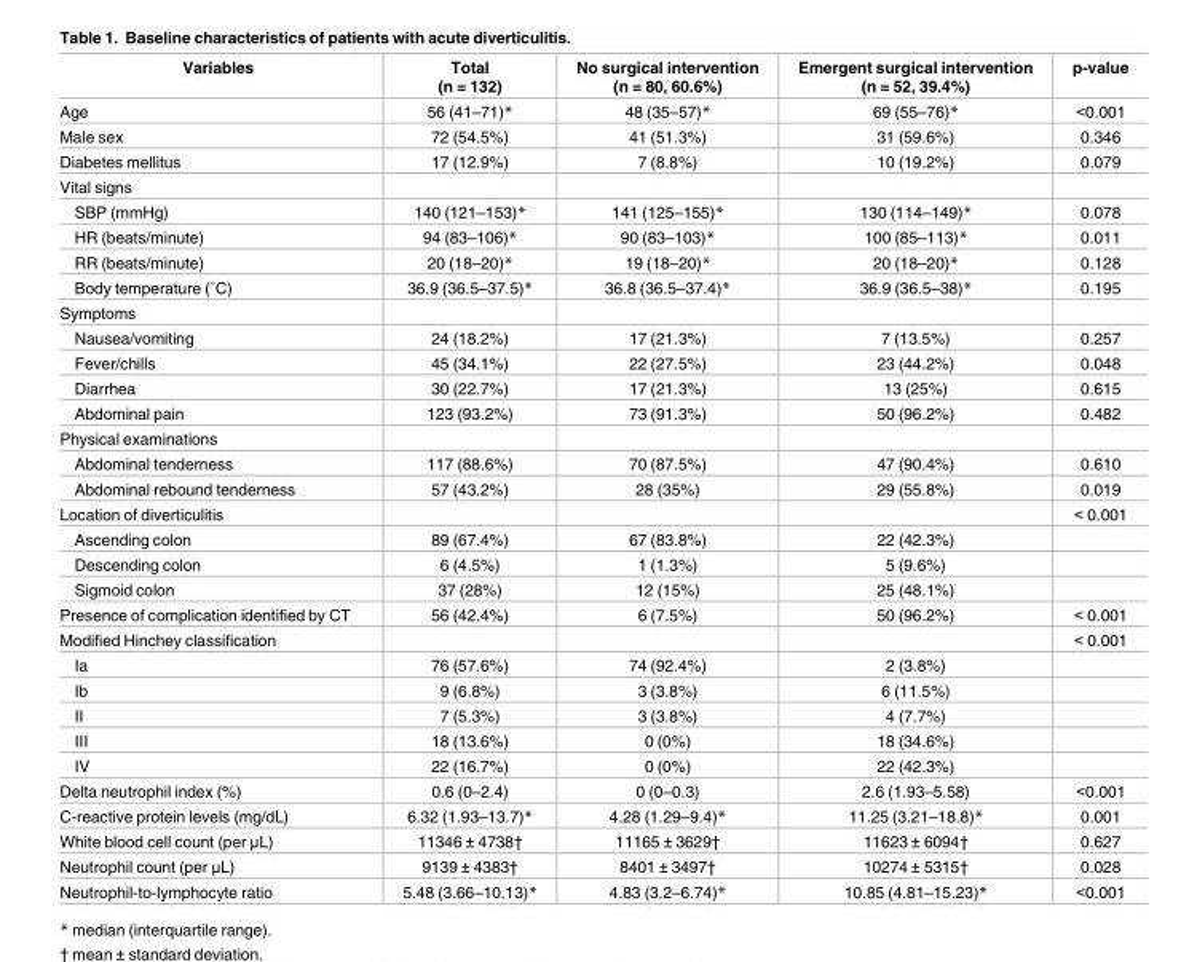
<table><thead><tr><td>Variables</td><td>Total (n = 132)</td><td>No surgical intervention (n = 80, 60.6%)</td><td>Emergent surgical intervention (n = 52, 39.4%)</td><td>p-value</td></tr></thead><tbody><tr><td>Age</td><td>56 (41–71)*</td><td>48 (35–57)*</td><td>69 (55–76)*</td><td>&lt;0.001</td></tr><tr><td>Male sex</td><td>72 (54.5%)</td><td>41 (51.3%)</td><td>31 (59.6%)</td><td>0.346</td></tr><tr><td>Diabetes mellitus</td><td>17 (12.9%)</td><td>7 (8.8%)</td><td>10 (19.2%)</td><td>0.079</td></tr><tr><td colspan="5">Vital signs</td></tr><tr><td>SBP (mmHg)</td><td>140 (121–153)*</td><td>141 (125–155)*</td><td>130 (114–149)*</td><td>0.078</td></tr><tr><td>HR (beats/minute)</td><td>94 (83–106)*</td><td>90 (83–103)*</td><td>100 (85–113)*</td><td>0.011</td></tr><tr><td>RR (beats/minute)</td><td>20 (18–20)*</td><td>19 (18–20)*</td><td>20 (18–20)*</td><td>0.128</td></tr><tr><td>Body temperature (˚C)</td><td>36.9 (36.5–37.5)*</td><td>36.8 (36.5–37.4)*</td><td>36.9 (36.5–38)*</td><td>0.195</td></tr><tr><td colspan="5">Symptoms</td></tr><tr><td>Nausea/vomiting</td><td>24 (18.2%)</td><td>17 (21.3%)</td><td>7 (13.5%)</td><td>0.257</td></tr><tr><td>Fever/chills</td><td>45 (34.1%)</td><td>22 (27.5%)</td><td>23 (44.2%)</td><td>0.048</td></tr><tr><td>Diarrhea</td><td>30 (22.7%)</td><td>17 (21.3%)</td><td>13 (25%)</td><td>0.615</td></tr><tr><td>Abdominal pain</td><td>123 (93.2%)</td><td>73 (91.3%)</td><td>50 (96.2%)</td><td>0.482</td></tr><tr><td colspan="5">Physical examinations</td></tr><tr><td>Abdominal tenderness</td><td>117 (88.6%)</td><td>70 (87.5%)</td><td>47 (90.4%)</td><td>0.610</td></tr><tr><td>Abdominal rebound tenderness</td><td>57 (43.2%)</td><td>28 (35%)</td><td>29 (55.8%)</td><td>0.019</td></tr><tr><td>Location of diverticulitis</td><td></td><td></td><td></td><td>&lt; 0.001</td></tr><tr><td>Ascending colon</td><td>89 (67.4%)</td><td>67 (83.8%)</td><td>22 (42.3%)</td><td></td></tr><tr><td>Descending colon</td><td>6 (4.5%)</td><td>1 (1.3%)</td><td>5 (9.6%)</td><td></td></tr><tr><td>Sigmoid colon</td><td>37 (28%)</td><td>12 (15%)</td><td>25 (48.1%)</td><td></td></tr><tr><td>Presence of complication identified by CT</td><td>56 (42.4%)</td><td>6 (7.5%)</td><td>50 (96.2%)</td><td>&lt; 0.001</td></tr><tr><td>Modified Hinchey classification</td><td></td><td></td><td></td><td>&lt; 0.001</td></tr><tr><td>Ia</td><td>76 (57.6%)</td><td>74 (92.4%)</td><td>2 (3.8%)</td><td></td></tr><tr><td>Ib</td><td>9 (6.8%)</td><td>3 (3.8%)</td><td>6 (11.5%)</td><td></td></tr><tr><td>II</td><td>7 (5.3%)</td><td>3 (3.8%)</td><td>4 (7.7%)</td><td></td></tr><tr><td>III</td><td>18 (13.6%)</td><td>0 (0%)</td><td>18 (34.6%)</td><td></td></tr><tr><td>IV</td><td>22 (16.7%)</td><td>0 (0%)</td><td>22 (42.3%)</td><td></td></tr><tr><td>Delta neutrophil index (%)</td><td>0.6 (0–2.4)</td><td>0 (0–0.3)</td><td>2.6 (1.93–5.58)</td><td>&lt;0.001</td></tr><tr><td>C-reactive protein levels (mg/dL)</td><td>6.32 (1.93–13.7)*</td><td>4.28 (1.29–9.4)*</td><td>11.25 (3.21–18.8)*</td><td>0.001</td></tr><tr><td>White blood cell count (per μL)</td><td>11346 ± 4738†</td><td>11165 ± 3629†</td><td>11623 ± 6094†</td><td>0.627</td></tr><tr><td>Neutrophil count (per μL)</td><td>9139 ± 4383†</td><td>8401 ± 3497†</td><td>10274 ± 5315†</td><td>0.028</td></tr><tr><td>Neutrophil-to-lymphocyte ratio</td><td>5.48 (3.66–10.13)*</td><td>4.83 (3.2–6.74)*</td><td>10.85 (4.81–15.23)*</td><td>&lt;0.001</td></tr></tbody></table>